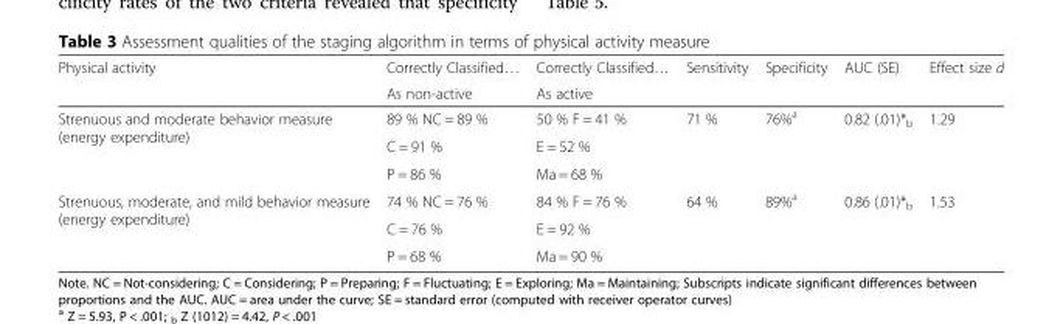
<table><thead><tr><td rowspan="2">Physical activity</td><td rowspan="2">Correctly Classified… As non-active</td><td rowspan="2">Correctly Classified… As active</td><td rowspan="2">Sensitivity</td><td rowspan="2">Specificity</td><td rowspan="2">AUC (SE)</td><td rowspan="2">Effect size d</td></tr><tr></tr></thead><tbody><tr><td rowspan="3">Strenuous and moderate behavior measure (energy expenditure)</td><td>89 % NC = 89 %</td><td>50 % F = 41 %</td><td rowspan="3">71 %</td><td rowspan="3">76%<sup>a</sup></td><td rowspan="3">0.82 (.01)*<sub>b</sub></td><td rowspan="3">1.29</td></tr><tr><td>C = 91 %</td><td>E = 52 %</td></tr><tr><td>P = 86 %</td><td>Ma = 68 %</td></tr><tr><td rowspan="3">Strenuous, moderate, and mild behavior measure (energy expenditure)</td><td>74 % NC = 76 %</td><td>84 % F = 76 %</td><td rowspan="3">64 %</td><td rowspan="3">89%<sup>a</sup></td><td rowspan="3">0.86 (.01)*<sub>b</sub></td><td rowspan="3">1.53</td></tr><tr><td>C = 76 %</td><td>E = 92 %</td></tr><tr><td>P = 68 %</td><td>Ma = 90 %</td></tr></tbody></table>